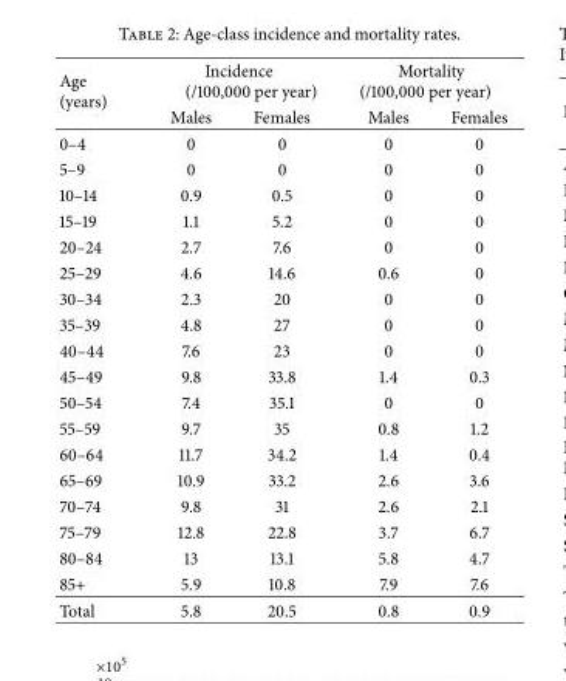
<table><thead><tr><td rowspan="2">Age (years)</td><td colspan="2">Incidence (/100,000 per year)</td><td colspan="2">Mortality (/100,000 per year)</td></tr><tr><td>Males</td><td>Females</td><td>Males</td><td>Females</td></tr></thead><tbody><tr><td>0–4</td><td>0</td><td>0</td><td>0</td><td>0</td></tr><tr><td>5–9</td><td>0</td><td>0</td><td>0</td><td>0</td></tr><tr><td>10–14</td><td>0.9</td><td>0.5</td><td>0</td><td>0</td></tr><tr><td>15–19</td><td>1.1</td><td>5.2</td><td>0</td><td>0</td></tr><tr><td>20–24</td><td>2.7</td><td>7.6</td><td>0</td><td>0</td></tr><tr><td>25–29</td><td>4.6</td><td>14.6</td><td>0.6</td><td>0</td></tr><tr><td>30–34</td><td>2.3</td><td>20</td><td>0</td><td>0</td></tr><tr><td>35–39</td><td>4.8</td><td>27</td><td>0</td><td>0</td></tr><tr><td>40–44</td><td>7.6</td><td>23</td><td>0</td><td>0</td></tr><tr><td>45–49</td><td>9.8</td><td>33.8</td><td>1.4</td><td>0.3</td></tr><tr><td>50–54</td><td>7.4</td><td>35.1</td><td>0</td><td>0</td></tr><tr><td>55–59</td><td>9.7</td><td>35</td><td>0.8</td><td>1.2</td></tr><tr><td>60–64</td><td>11.7</td><td>34.2</td><td>1.4</td><td>0.4</td></tr><tr><td>65–69</td><td>10.9</td><td>33.2</td><td>2.6</td><td>3.6</td></tr><tr><td>70–74</td><td>9.8</td><td>31</td><td>2.6</td><td>2.1</td></tr><tr><td>75–79</td><td>12.8</td><td>22.8</td><td>3.7</td><td>6.7</td></tr><tr><td>80–84</td><td>13</td><td>13.1</td><td>5.8</td><td>4.7</td></tr><tr><td>85+</td><td>5.9</td><td>10.8</td><td>7.9</td><td>7.6</td></tr><tr><td>Total</td><td>5.8</td><td>20.5</td><td>0.8</td><td>0.9</td></tr></tbody></table>